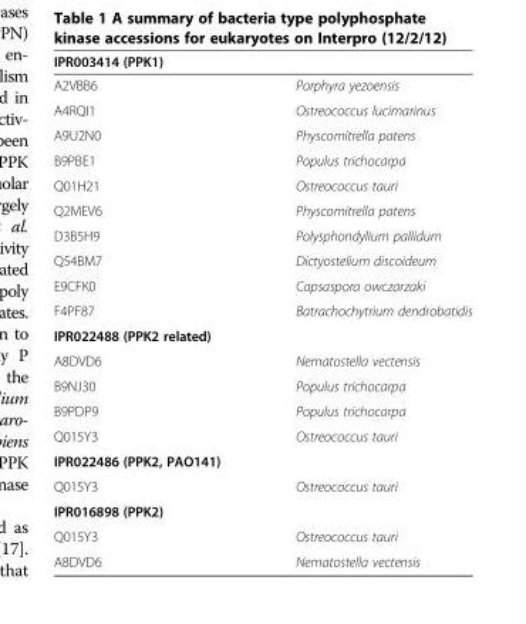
<table><thead><tr><td>IPR003414 (PPK1)</td><td></td></tr></thead><tbody><tr><td>A2VBB6</td><td>Porphyra yezoensis</td></tr><tr><td>A4RQI1</td><td>Ostreococcus lucimarinus</td></tr><tr><td>A9U2N0</td><td>Physcomitrella patens</td></tr><tr><td>B9PBE1</td><td>Populus trichocarpa</td></tr><tr><td>Q01H21</td><td>Ostreococcus tauri</td></tr><tr><td>Q2MEV6</td><td>Physcomitrella patens</td></tr><tr><td>D3B5H9</td><td>Polysphondylium pallidum</td></tr><tr><td>Q54BM7</td><td>Dictyostelium discoideum</td></tr><tr><td>E9CFK0</td><td>Capsaspora owczarzaki</td></tr><tr><td>F4PF87</td><td>Batrachochytrium dendrobatidis</td></tr><tr><td colspan="2">IPR022488 (PPK2 related)</td></tr><tr><td>A8DVD6</td><td>Nematostella vectensis</td></tr><tr><td>B9NJ30</td><td>Populus trichocarpa</td></tr><tr><td>B9PDP9</td><td>Populus trichocarpa</td></tr><tr><td>Q015Y3</td><td>Ostreococcus tauri</td></tr><tr><td colspan="2">IPR022486 (PPK2, PAO141)</td></tr><tr><td>Q015Y3</td><td>Ostreococcus tauri</td></tr><tr><td colspan="2">IPR016898 (PPK2)</td></tr><tr><td>Q015Y3</td><td>Ostreococcus tauri</td></tr><tr><td>A8DVD6</td><td>Nematostella vectensis</td></tr></tbody></table>